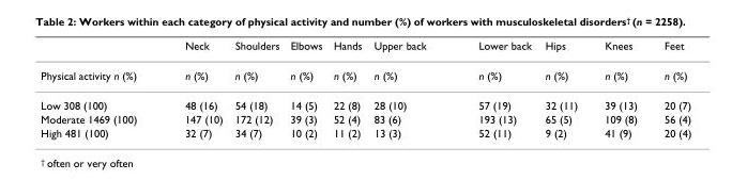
<table><thead><tr><td></td><td>Neck</td><td>Shoulders</td><td>Elbows</td><td>Hands</td><td>Upper back</td><td>Lower back</td><td>Hips</td><td>Knees</td><td>Feet</td></tr></thead><tbody><tr><td>Physical activity n (%)</td><td>n (%)</td><td>n (%)</td><td>n (%)</td><td>n (%)</td><td>n (%)</td><td>n (%)</td><td>n (%)</td><td>n (%)</td><td>n (%)</td></tr><tr><td>Low 308 (100)</td><td>48 (16)</td><td>54 (18)</td><td>14 (5)</td><td>22 (8)</td><td>28 (10)</td><td>57 (19)</td><td>32 (11)</td><td>39 (13)</td><td>20 (7)</td></tr><tr><td>Moderate 1469 (100)</td><td>147 (10)</td><td>172 (12)</td><td>39 (3)</td><td>52 (4)</td><td>83 (6)</td><td>193 (13)</td><td>65 (5)</td><td>109 (8)</td><td>56 (4)</td></tr><tr><td>High 481 (100)</td><td>32 (7)</td><td>34 (7)</td><td>10 (2)</td><td>11 (2)</td><td>13 (3)</td><td>52 (11)</td><td>9 (2)</td><td>41 (9)</td><td>20 (4)</td></tr></tbody></table>